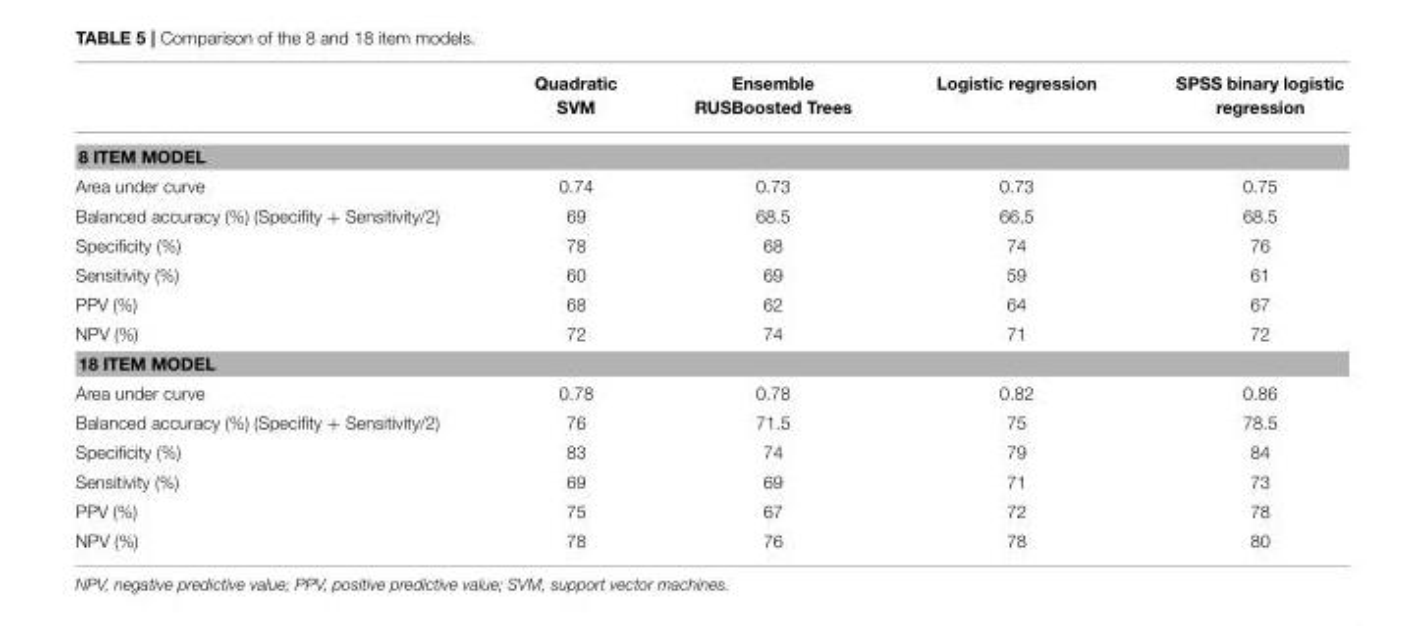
<table><thead><tr><td></td><td>Quadratic SVM</td><td>Ensemble RUSBoosted Trees</td><td>Logistic regression</td><td>SPSS binary logistic regression</td></tr></thead><tbody><tr><td colspan="5">8 ITEM MODEL</td></tr><tr><td>Area under curve</td><td>0.74</td><td>0.73</td><td>0.73</td><td>0.75</td></tr><tr><td>Balanced accuracy (%) (Specifity + Sensitivity/2)</td><td>69</td><td>68.5</td><td>66,5</td><td>68.5</td></tr><tr><td>Specificity (%)</td><td>78</td><td>68</td><td>74</td><td>76</td></tr><tr><td>Sensitivity (%)</td><td>60</td><td>69</td><td>59</td><td>61</td></tr><tr><td>PPV (%)</td><td>68</td><td>62</td><td>64</td><td>67</td></tr><tr><td>NPV (%)</td><td>72</td><td>74</td><td>71</td><td>72</td></tr><tr><td colspan="5">18 ITEM MODEL</td></tr><tr><td>Area under curve</td><td>0.78</td><td>0.78</td><td>0.82</td><td>0.86</td></tr><tr><td>Balanced accuracy (%) (Specifity + Sensitivity/2)</td><td>76</td><td>71.5</td><td>75</td><td>78.5</td></tr><tr><td>Specificity (%)</td><td>83</td><td>74</td><td>79</td><td>84</td></tr><tr><td>Sensitivity (%)</td><td>69</td><td>69</td><td>71</td><td>73</td></tr><tr><td>PPV (%)</td><td>75</td><td>67</td><td>72</td><td>78</td></tr><tr><td>NPV (%)</td><td>78</td><td>76</td><td>78</td><td>80</td></tr></tbody></table>